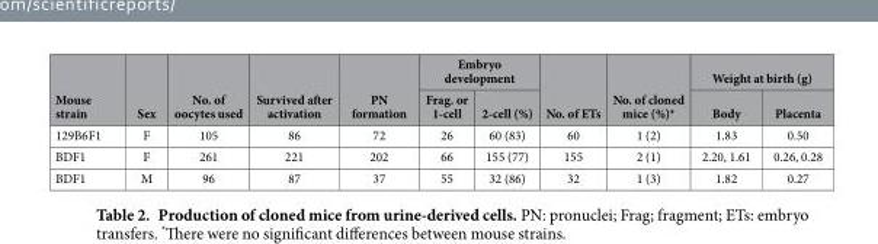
<table><thead><tr><td rowspan="2">Mouse strain</td><td rowspan="2">Sex</td><td rowspan="2">No. of oocytes used</td><td rowspan="2">Survived after activation</td><td rowspan="2">PN formation</td><td colspan="2">Embryo development</td><td rowspan="2">No. of ETs</td><td rowspan="2">No. of cloned mice (%)*</td><td colspan="2">Weight at birth (g)</td></tr><tr><td>Frag. or 1-cell</td><td>2-cell (%)</td><td>Body</td><td>Placenta</td></tr></thead><tbody><tr><td>129B6F1</td><td>F</td><td>105</td><td>86</td><td>72</td><td>26</td><td>60 (83)</td><td>60</td><td>1 (2)</td><td>1.83</td><td>0.50</td></tr><tr><td>BDF1</td><td>F</td><td>261</td><td>221</td><td>202</td><td>66</td><td>155 (77)</td><td>155</td><td>2 (1)</td><td>2.20, 1.61</td><td>0.26, 0.28</td></tr><tr><td>BDF1</td><td>M</td><td>96</td><td>87</td><td>37</td><td>55</td><td>32 (86)</td><td>32</td><td>1 (3)</td><td>1.82</td><td>0.27</td></tr></tbody></table>